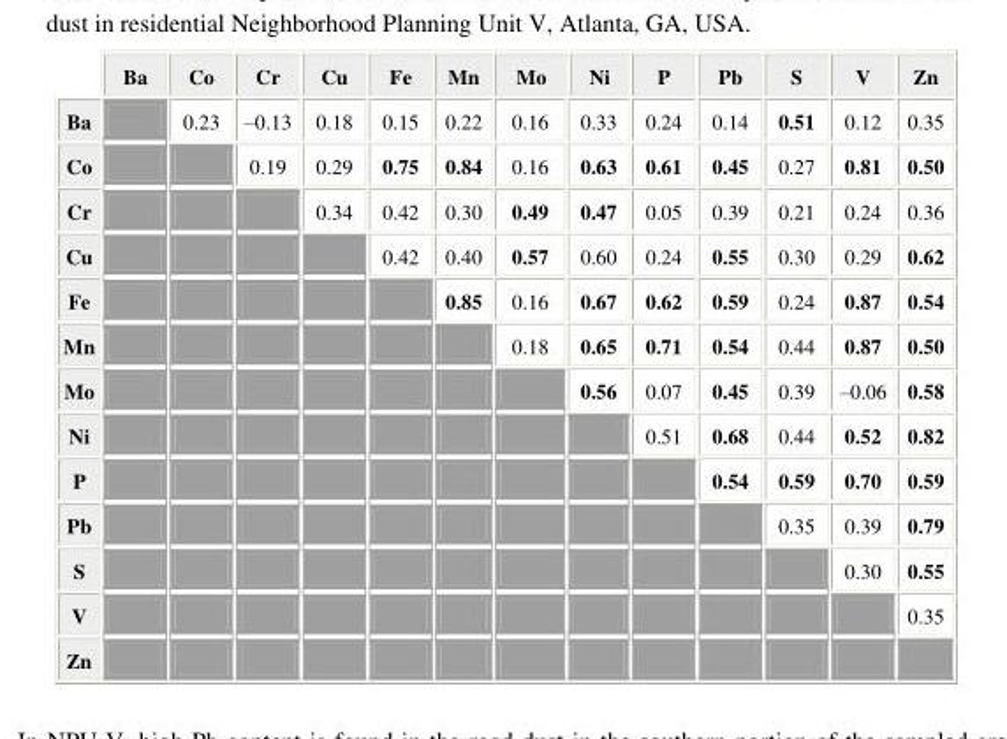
<table><thead><tr><td></td><td>Ba</td><td>Co</td><td>Cr</td><td>Cu</td><td>Fe</td><td>Mn</td><td>Mo</td><td>Ni</td><td>P</td><td>Pb</td><td>S</td><td>V</td><td>Zn</td></tr></thead><tbody><tr><td>Ba</td><td></td><td>0.23</td><td>–0.13</td><td>0.18</td><td>0.15</td><td>0.22</td><td>0.16</td><td>0.33</td><td>0.24</td><td>0.14</td><td>0.51</td><td>0.12</td><td>0.35</td></tr><tr><td>Co</td><td></td><td></td><td>0.19</td><td>0.29</td><td>0.75</td><td>0.84</td><td>0.16</td><td>0.63</td><td>0.61</td><td>0.45</td><td>0.27</td><td>0.81</td><td>0.50</td></tr><tr><td>Cr</td><td></td><td></td><td></td><td>0.34</td><td>0.42</td><td>0.30</td><td>0.49</td><td>0.47</td><td>0.05</td><td>0.39</td><td>0.21</td><td>0.24</td><td>0.36</td></tr><tr><td>Cu</td><td></td><td></td><td></td><td></td><td>0.42</td><td>0.40</td><td>0.57</td><td>0.60</td><td>0.24</td><td>0.55</td><td>0.30</td><td>0.29</td><td>0.62</td></tr><tr><td>Fe</td><td></td><td></td><td></td><td></td><td></td><td>0.85</td><td>0.16</td><td>0.67</td><td>0.62</td><td>0.59</td><td>0.24</td><td>0.87</td><td>0.54</td></tr><tr><td>Mn</td><td></td><td></td><td></td><td></td><td></td><td></td><td>0.18</td><td>0.65</td><td>0.71</td><td>0.54</td><td>0.44</td><td>0.87</td><td>0.50</td></tr><tr><td>Mo</td><td></td><td></td><td></td><td></td><td></td><td></td><td></td><td>0.56</td><td>0.07</td><td>0.45</td><td>0.39</td><td>–0.06</td><td>0.58</td></tr><tr><td>Ni</td><td></td><td></td><td></td><td></td><td></td><td></td><td></td><td></td><td>0.51</td><td>0.68</td><td>0.44</td><td>0.52</td><td>0.82</td></tr><tr><td>P</td><td></td><td></td><td></td><td></td><td></td><td></td><td></td><td></td><td></td><td>0.54</td><td>0.59</td><td>0.70</td><td>0.59</td></tr><tr><td>Pb</td><td></td><td></td><td></td><td></td><td></td><td></td><td></td><td></td><td></td><td></td><td>0.35</td><td>0.39</td><td>0.79</td></tr><tr><td>S</td><td></td><td></td><td></td><td></td><td></td><td></td><td></td><td></td><td></td><td></td><td></td><td>0.30</td><td>0.55</td></tr><tr><td>V</td><td></td><td></td><td></td><td></td><td></td><td></td><td></td><td></td><td></td><td></td><td></td><td></td><td>0.35</td></tr><tr><td>Zn</td><td></td><td></td><td></td><td></td><td></td><td></td><td></td><td></td><td></td><td></td><td></td><td></td><td></td></tr></tbody></table>